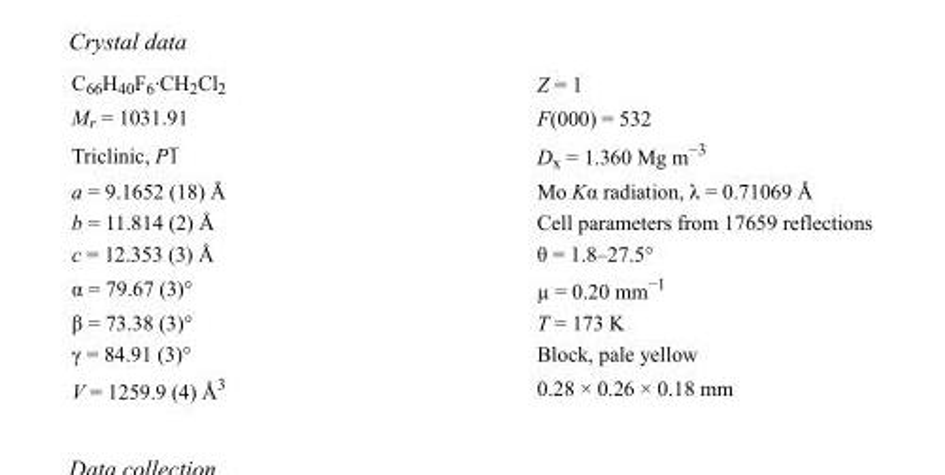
<table><tbody><tr><td>C<sub>66</sub>H<sub>40</sub>F<sub>6</sub>·CH<sub>2</sub>Cl<sub>2</sub></td><td>Z = 1</td></tr><tr><td>M<sub>r</sub> = 1031.91</td><td>F(000) = 532</td></tr><tr><td>Triclinic, P1</td><td>D<sub>x</sub> = 1.360 Mg m<sup>−3</sup></td></tr><tr><td>a = 9.1652 (18) Å</td><td>Mo Kα radiation, λ = 0.71069 Å</td></tr><tr><td>b = 11.814 (2) Å</td><td>Cell parameters from 17659 reflections</td></tr><tr><td>c = 12.353 (3) Å</td><td>θ = 1.8–27.5°</td></tr><tr><td>α = 79.67 (3)°</td><td>µ = 0.20 mm<sup>−1</sup></td></tr><tr><td>β = 73.38 (3)°</td><td>T = 173 K</td></tr><tr><td>γ = 84.91 (3)°</td><td>Block, pale yellow</td></tr><tr><td>V = 1259.9 (4) Å<sup>3</sup></td><td>0.28 × 0.26 × 0.18 mm</td></tr></tbody></table>